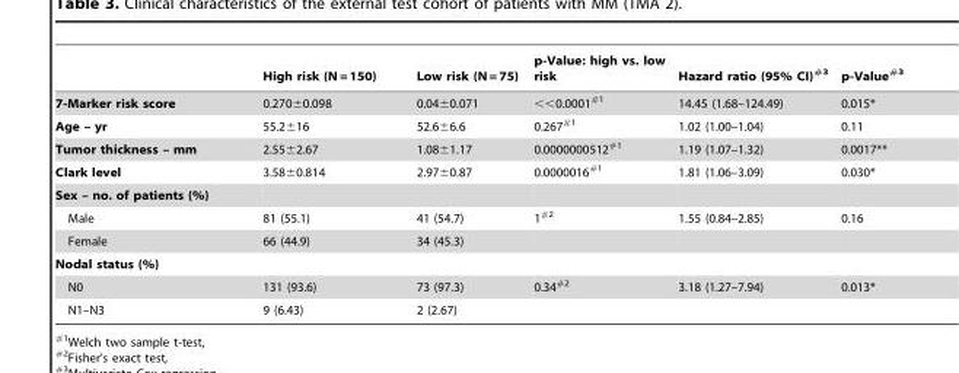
<table><thead><tr><td></td><td>High risk (N = 150)</td><td>Low risk (N = 75)</td><td>p-Value: high vs. low risk</td><td>Hazard ratio (95% CI)#3</td><td>p-Value#3</td></tr></thead><tbody><tr><td>7-Marker risk score</td><td>0.270±0.098</td><td>0.04±0.071</td><td>&lt;&lt;0.0001#1</td><td>14.45 (1.68–124.49)</td><td>0.015*</td></tr><tr><td>Age – yr</td><td>55.2±16</td><td>52.6±6.6</td><td>0.267#1</td><td>1.02 (1.00–1.04)</td><td>0.11</td></tr><tr><td>Tumor thickness – mm</td><td>2.55±2.67</td><td>1.08±1.17</td><td>0.0000000512#1</td><td>1.19 (1.07–1.32)</td><td>0.0017**</td></tr><tr><td>Clark level</td><td>3.58±0.814</td><td>2.97±0.87</td><td>0.0000016#1</td><td>1.81 (1.06–3.09)</td><td>0.030*</td></tr><tr><td colspan="6">Sex – no. of patients (%)</td></tr><tr><td>Male</td><td>81 (55.1)</td><td>41 (54.7)</td><td>1#2</td><td>1.55 (0.84–2.85)</td><td>0.16</td></tr><tr><td>Female</td><td>66 (44.9)</td><td>34 (45.3)</td><td></td><td></td><td></td></tr><tr><td colspan="6">Nodal status (%)</td></tr><tr><td>N0</td><td>131 (93.6)</td><td>73 (97.3)</td><td>0.34#2</td><td>3.18 (1.27–7.94)</td><td>0.013*</td></tr><tr><td>N1–N3</td><td>9 (6.43)</td><td>2 (2.67)</td><td></td><td></td><td></td></tr></tbody></table>